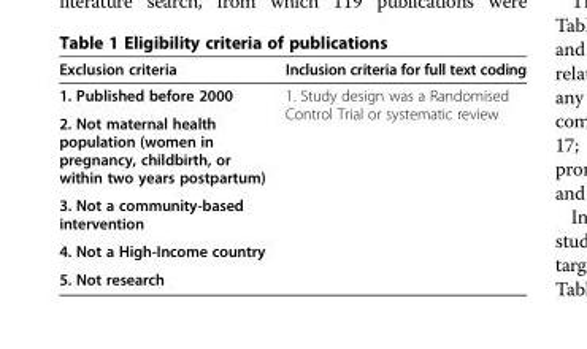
<table><thead><tr><td>Exclusion criteria</td><td>Inclusion criteria for full text coding</td></tr></thead><tbody><tr><td>1. Published before 2000</td><td rowspan="5">1. Study design was a Randomised Control Trial or systematic review</td></tr><tr><td>2. Not maternal health population (women in pregnancy, childbirth, or within two years postpartum)</td></tr><tr><td>3. Not a community-based intervention</td></tr><tr><td>4. Not a High-Income country</td></tr><tr><td>5. Not research</td></tr></tbody></table>